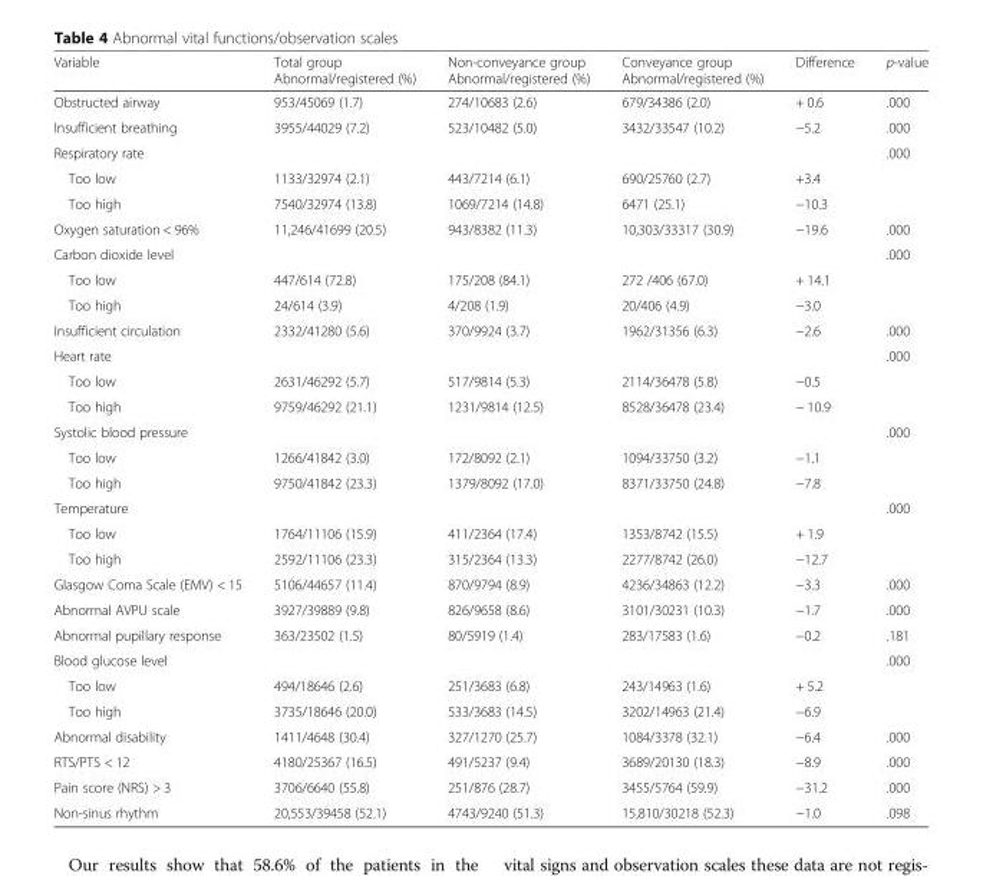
<table><thead><tr><td>Variable</td><td>Total group Abnormal/registered (%)</td><td>Non-conveyance group Abnormal/registered (%)</td><td>Conveyance group Abnormal/registered (%)</td><td>Difference</td><td>p-value</td></tr></thead><tbody><tr><td>Obstructed airway</td><td>953/45069 (1.7)</td><td>274/10683 (2.6)</td><td>679/34386 (2.0)</td><td>+ 0.6</td><td>.000</td></tr><tr><td>Insufficient breathing</td><td>3955/44029 (7.2)</td><td>523/10482 (5.0)</td><td>3432/33547 (10.2)</td><td>−5.2</td><td>.000</td></tr><tr><td colspan="5">Respiratory rate</td><td rowspan="3">.000</td></tr><tr><td>Too low</td><td>1133/32974 (2.1)</td><td>443/7214 (6.1)</td><td>690/25760 (2.7)</td><td>+3.4</td></tr><tr><td>Too high</td><td>7540/32974 (13.8)</td><td>1069/7214 (14.8)</td><td>6471 (25.1)</td><td>−10.3</td></tr><tr><td>Oxygen saturation &lt; 96%</td><td>11,246/41699 (20.5)</td><td>943/8382 (11.3)</td><td>10,303/33317 (30.9)</td><td>−19.6</td><td>.000</td></tr><tr><td colspan="5">Carbon dioxide level</td><td rowspan="3">.000</td></tr><tr><td>Too low</td><td>447/614 (72.8)</td><td>175/208 (84.1)</td><td>272 /406 (67.0)</td><td>+ 14.1</td></tr><tr><td>Too high</td><td>24/614 (3.9)</td><td>4/208 (1.9)</td><td>20/406 (4.9)</td><td>−3.0</td></tr><tr><td>Insufficient circulation</td><td>2332/41280 (5.6)</td><td>370/9924 (3.7)</td><td>1962/31356 (6.3)</td><td>−2.6</td><td>.000</td></tr><tr><td colspan="5">Heart rate</td><td rowspan="3">.000</td></tr><tr><td>Too low</td><td>2631/46292 (5.7)</td><td>517/9814 (5.3)</td><td>2114/36478 (5.8)</td><td>−0.5</td></tr><tr><td>Too high</td><td>9759/46292 (21.1)</td><td>1231/9814 (12.5)</td><td>8528/36478 (23.4)</td><td>− 10.9</td></tr><tr><td colspan="5">Systolic blood pressure</td><td rowspan="3">.000</td></tr><tr><td>Too low</td><td>1266/41842 (3.0)</td><td>172/8092 (2.1)</td><td>1094/33750 (3.2)</td><td>−1.1</td></tr><tr><td>Too high</td><td>9750/41842 (23.3)</td><td>1379/8092 (17.0)</td><td>8371/33750 (24.8)</td><td>−7.8</td></tr><tr><td colspan="5">Temperature</td><td rowspan="3">.000</td></tr><tr><td>Too low</td><td>1764/11106 (15.9)</td><td>411/2364 (17.4)</td><td>1353/8742 (15.5)</td><td>+ 1.9</td></tr><tr><td>Too high</td><td>2592/11106 (23.3)</td><td>315/2364 (13.3)</td><td>2277/8742 (26.0)</td><td>−12.7</td></tr><tr><td>Glasgow Coma Scale (EMV) &lt; 15</td><td>5106/44657 (11.4)</td><td>870/9794 (8.9)</td><td>4236/34863 (12.2)</td><td>−3.3</td><td>.000</td></tr><tr><td>Abnormal AVPU scale</td><td>3927/39889 (9.8)</td><td>826/9658 (8.6)</td><td>3101/30231 (10.3)</td><td>−1.7</td><td>.000</td></tr><tr><td>Abnormal pupillary response</td><td>363/23502 (1.5)</td><td>80/5919 (1.4)</td><td>283/17583 (1.6)</td><td>−0.2</td><td>.181</td></tr><tr><td colspan="5">Blood glucose level</td><td rowspan="3">.000</td></tr><tr><td>Too low</td><td>494/18646 (2.6)</td><td>251/3683 (6.8)</td><td>243/14963 (1.6)</td><td>+ 5.2</td></tr><tr><td>Too high</td><td>3735/18646 (20.0)</td><td>533/3683 (14.5)</td><td>3202/14963 (21.4)</td><td>−6.9</td></tr><tr><td>Abnormal disability</td><td>1411/4648 (30.4)</td><td>327/1270 (25.7)</td><td>1084/3378 (32.1)</td><td>−6.4</td><td>.000</td></tr><tr><td>RTS/PTS &lt; 12</td><td>4180/25367 (16.5)</td><td>491/5237 (9.4)</td><td>3689/20130 (18.3)</td><td>−8.9</td><td>.000</td></tr><tr><td>Pain score (NRS) &gt; 3</td><td>3706/6640 (55.8)</td><td>251/876 (28.7)</td><td>3455/5764 (59.9)</td><td>−31.2</td><td>.000</td></tr><tr><td>Non-sinus rhythm</td><td>20,553/39458 (52.1)</td><td>4743/9240 (51.3)</td><td>15,810/30218 (52.3)</td><td>−1.0</td><td>.098</td></tr></tbody></table>